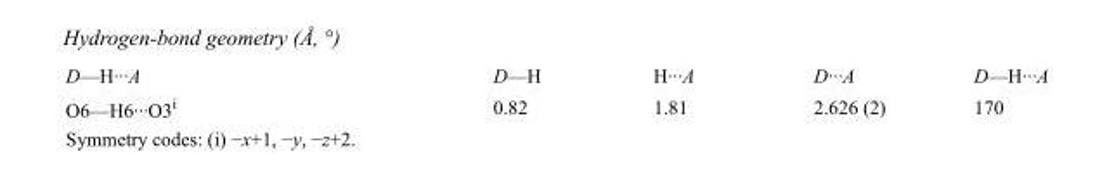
<table><tbody><tr><td>D—H···A</td><td>D—H</td><td>H···A</td><td>D···A</td><td>D—H···A</td></tr><tr><td>O6—H6···O3<sup>i</sup></td><td>0.82</td><td>1.81</td><td>2.626 (2)</td><td>170</td></tr></tbody></table>